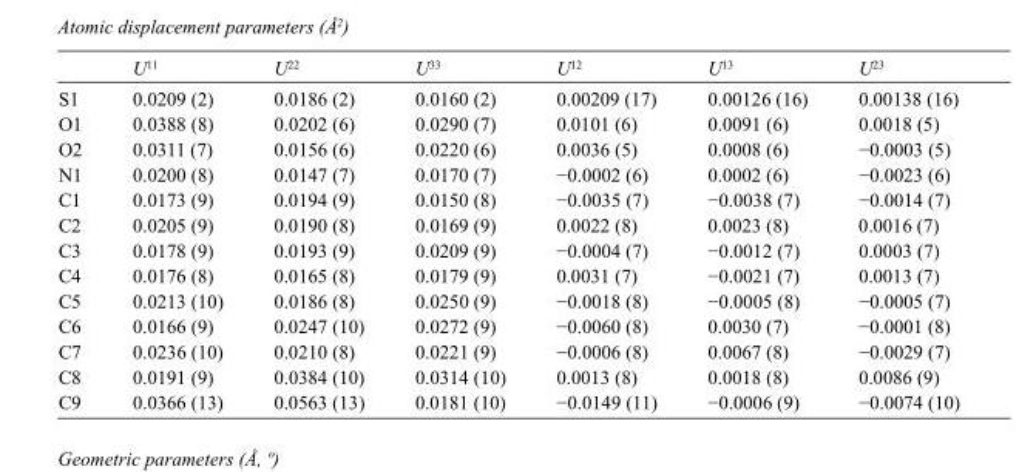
<table><thead><tr><td></td><td>U<sup>11</sup></td><td>U<sup>22</sup></td><td>U<sup>33</sup></td><td>U<sup>12</sup></td><td>U<sup>13</sup></td><td>U<sup>23</sup></td></tr></thead><tbody><tr><td>S1</td><td>0.0209 (2)</td><td>0.0186 (2)</td><td>0.0160 (2)</td><td>0.00209 (17)</td><td>0.00126 (16)</td><td>0.00138 (16)</td></tr><tr><td>O1</td><td>0.0388 (8)</td><td>0.0202 (6)</td><td>0.0290 (7)</td><td>0.0101 (6)</td><td>0.0091 (6)</td><td>0.0018 (5)</td></tr><tr><td>O2</td><td>0.0311 (7)</td><td>0.0156 (6)</td><td>0.0220 (6)</td><td>0.0036 (5)</td><td>0.0008 (6)</td><td>−0.0003 (5)</td></tr><tr><td>N1</td><td>0.0200 (8)</td><td>0.0147 (7)</td><td>0.0170 (7)</td><td>−0.0002 (6)</td><td>0.0002 (6)</td><td>−0.0023 (6)</td></tr><tr><td>C1</td><td>0.0173 (9)</td><td>0.0194 (9)</td><td>0.0150 (8)</td><td>−0.0035 (7)</td><td>−0.0038 (7)</td><td>−0.0014 (7)</td></tr><tr><td>C2</td><td>0.0205 (9)</td><td>0.0190 (8)</td><td>0.0169 (9)</td><td>0.0022 (8)</td><td>0.0023 (8)</td><td>0.0016 (7)</td></tr><tr><td>C3</td><td>0.0178 (9)</td><td>0.0193 (9)</td><td>0.0209 (9)</td><td>−0.0004 (7)</td><td>−0.0012 (7)</td><td>0.0003 (7)</td></tr><tr><td>C4</td><td>0.0176 (8)</td><td>0.0165 (8)</td><td>0.0179 (9)</td><td>0.0031 (7)</td><td>−0.0021 (7)</td><td>0.0013 (7)</td></tr><tr><td>C5</td><td>0.0213 (10)</td><td>0.0186 (8)</td><td>0.0250 (9)</td><td>−0.0018 (8)</td><td>−0.0005 (8)</td><td>−0.0005 (7)</td></tr><tr><td>C6</td><td>0.0166 (9)</td><td>0.0247 (10)</td><td>0.0272 (9)</td><td>−0.0060 (8)</td><td>0.0030 (7)</td><td>−0.0001 (8)</td></tr><tr><td>C7</td><td>0.0236 (10)</td><td>0.0210 (8)</td><td>0.0221 (9)</td><td>−0.0006 (8)</td><td>0.0067 (8)</td><td>−0.0029 (7)</td></tr><tr><td>C8</td><td>0.0191 (9)</td><td>0.0384 (10)</td><td>0.0314 (10)</td><td>0.0013 (8)</td><td>0.0018 (8)</td><td>0.0086 (9)</td></tr><tr><td>C9</td><td>0.0366 (13)</td><td>0.0563 (13)</td><td>0.0181 (10)</td><td>−0.0149 (11)</td><td>−0.0006 (9)</td><td>−0.0074 (10)</td></tr></tbody></table>